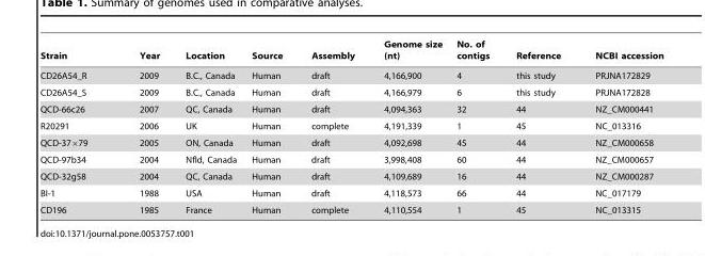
<table><thead><tr><td>Strain</td><td>Year</td><td>Location</td><td>Source</td><td>Assembly</td><td>Genome size (nt)</td><td>No. of contigs</td><td>Reference</td><td>NCBI accession</td></tr></thead><tbody><tr><td>CD26A54_R</td><td>2009</td><td>B.C., Canada</td><td>Human</td><td>draft</td><td>4,166,900</td><td>4</td><td>this study</td><td>PRJNA172829</td></tr><tr><td>CD26A54_S</td><td>2009</td><td>B.C., Canada</td><td>Human</td><td>draft</td><td>4,166,979</td><td>6</td><td>this study</td><td>PRJNA172828</td></tr><tr><td>QCD-66c26</td><td>2007</td><td>QC, Canada</td><td>Human</td><td>draft</td><td>4,094,363</td><td>32</td><td>44</td><td>NZ_CM000441</td></tr><tr><td>R20291</td><td>2006</td><td>UK</td><td>Human</td><td>complete</td><td>4,191,339</td><td>1</td><td>45</td><td>NC_013316</td></tr><tr><td>QCD-37×79</td><td>2005</td><td>ON, Canada</td><td>Human</td><td>draft</td><td>4,092,698</td><td>45</td><td>44</td><td>NZ_CM000658</td></tr><tr><td>QCD-97b34</td><td>2004</td><td>Nfld, Canada</td><td>Human</td><td>draft</td><td>3,998,408</td><td>60</td><td>44</td><td>NZ_CM000657</td></tr><tr><td>QCD-32g58</td><td>2004</td><td>QC, Canada</td><td>Human</td><td>draft</td><td>4,109,689</td><td>16</td><td>44</td><td>NZ_CM000287</td></tr><tr><td>BI-1</td><td>1988</td><td>USA</td><td>Human</td><td>draft</td><td>4,118,573</td><td>66</td><td>44</td><td>NC_017179</td></tr><tr><td>CD196</td><td>1985</td><td>France</td><td>Human</td><td>complete</td><td>4,110,554</td><td>1</td><td>45</td><td>NC_013315</td></tr></tbody></table>